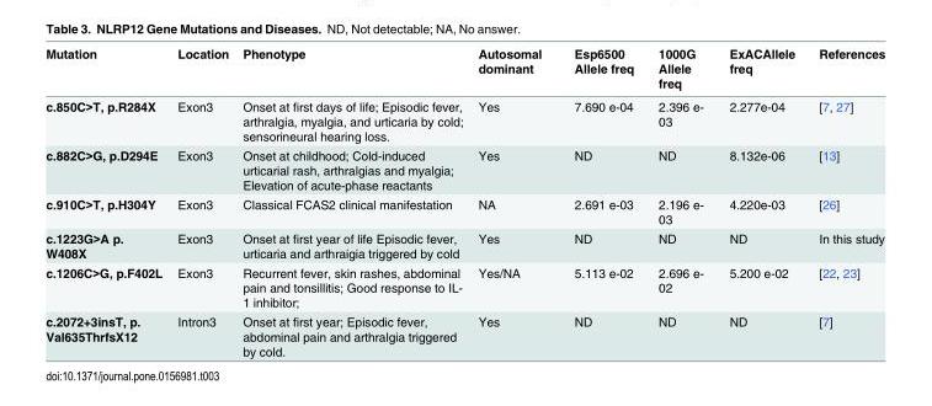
<table><thead><tr><td>Mutation</td><td>Location</td><td>Phenotype</td><td>Autosomal dominant</td><td>Esp6500 Allele freq</td><td>1000G Allele freq</td><td>ExACAllele freq</td><td>References</td></tr></thead><tbody><tr><td>c.850C&gt;T, p.R284X</td><td>Exon3</td><td>Onset at first days of life; Episodic fever, arthralgia, myalgia, and urticaria by cold; sensorineural hearing loss.</td><td>Yes</td><td>7.690 e-04</td><td>2.396 e- 03</td><td>2.277e-04</td><td>[7, 27]</td></tr><tr><td>c.882C&gt;G, p.D294E</td><td>Exon3</td><td>Onset at childhood; Cold-induced urticarial rash, arthralgias and myalgia; Elevation of acute-phase reactants</td><td>Yes</td><td>ND</td><td>ND</td><td>8.132e-06</td><td>[13]</td></tr><tr><td>c.910C&gt;T, p.H304Y</td><td>Exon3</td><td>Classical FCAS2 clinical manifestation</td><td>NA</td><td>2.691 e-03</td><td>2.196 e- 03</td><td>4.220e-03</td><td>[26]</td></tr><tr><td>c.1223G&gt;A p. W408X</td><td>Exon3</td><td>Onset at first year of life Episodic fever, urticaria and arthraigia triggered by cold</td><td>Yes</td><td>ND</td><td>ND</td><td>ND</td><td>In this study</td></tr><tr><td>c.1206C&gt;G, p.F402L</td><td>Exon3</td><td>Recurrent fever, skin rashes, abdominal pain and tonsillitis; Good response to IL- 1 inhibitor;</td><td>Yes/NA</td><td>5.113 e-02</td><td>2.696 e- 02</td><td>5.200 e-02</td><td>[22, 23]</td></tr><tr><td>c.2072+3insT, p. Val635ThrfsX12</td><td>Intron3</td><td>Onset at first year; Episodic fever, abdominal pain and arthralgia triggered by cold.</td><td>Yes</td><td>ND</td><td>ND</td><td>ND</td><td>[7]</td></tr></tbody></table>